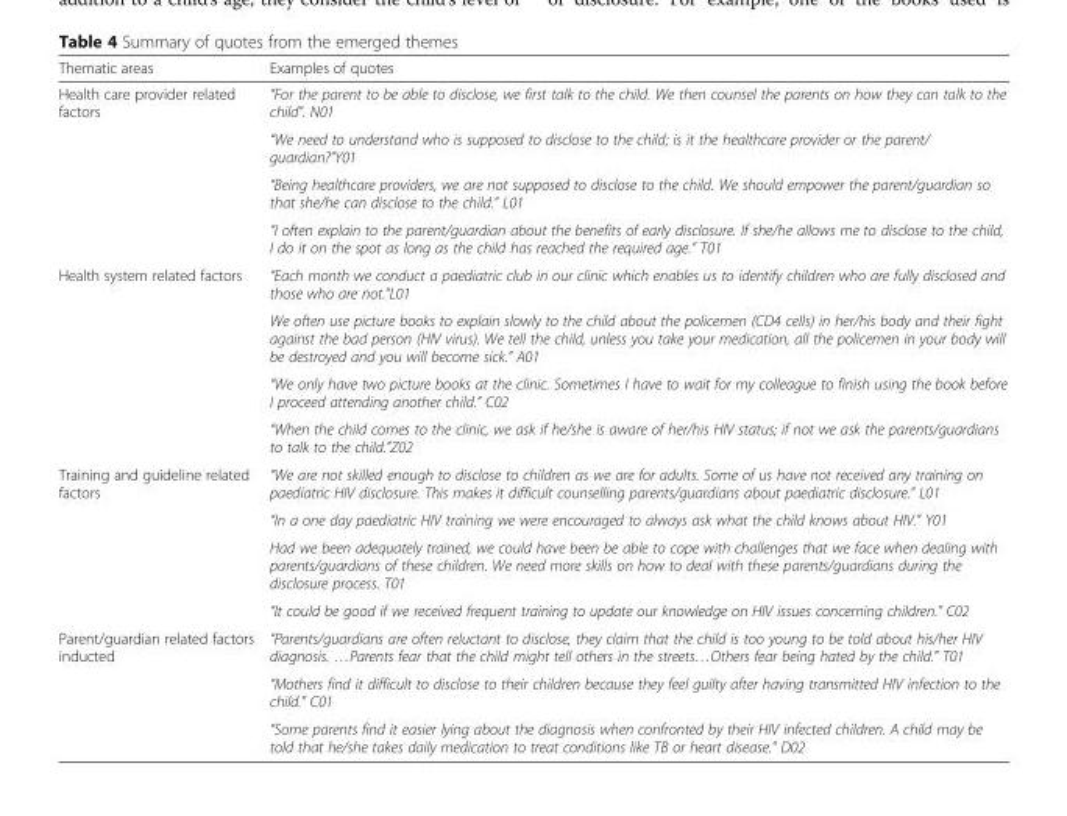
<table><thead><tr><td>Thematic areas</td><td>Examples of quotes</td></tr></thead><tbody><tr><td rowspan="4">Health care provider related factors</td><td>“For the parent to be able to disclose, we first talk to the child. We then counsel the parents on how they can talk to the child”. N01</td></tr><tr><td>“We need to understand who is supposed to disclose to the child; is it the healthcare provider or the parent/ guardian?”Y01</td></tr><tr><td>“Being healthcare providers, we are not supposed to disclose to the child. We should empower the parent/guardian so that she/he can disclose to the child.” L01</td></tr><tr><td>“I often explain to the parent/guardian about the benefits of early disclosure. If she/he allows me to disclose to the child, I do it on the spot as long as the child has reached the required age.” T01</td></tr><tr><td rowspan="4">Health system related factors</td><td>“Each month we conduct a paediatric club in our clinic which enables us to identify children who are fully disclosed and those who are not.”L01</td></tr><tr><td>We often use picture books to explain slowly to the child about the policemen (CD4 cells) in her/his body and their fight against the bad person (HIV virus). We tell the child, unless you take your medication, all the policemen in your body will be destroyed and you will become sick.” A01</td></tr><tr><td>“We only have two picture books at the clinic. Sometimes I have to wait for my colleague to finish using the book before I proceed attending another child.” C02</td></tr><tr><td>“When the child comes to the clinic, we ask if he/she is aware of her/his HIV status; if not we ask the parents/guardians to talk to the child.”Z02</td></tr><tr><td rowspan="4">Training and guideline related factors</td><td>“We are not skilled enough to disclose to children as we are for adults. Some of us have not received any training on paediatric HIV disclosure. This makes it difficult counselling parents/guardians about paediatric disclosure.” L01</td></tr><tr><td>“In a one day paediatric HIV training we were encouraged to always ask what the child knows about HIV.” Y01</td></tr><tr><td>Had we been adequately trained, we could have been be able to cope with challenges that we face when dealing with parents/guardians of these children. We need more skills on how to deal with these parents/guardians during the disclosure process. T01</td></tr><tr><td>“It could be good if we received frequent training to update our knowledge on HIV issues concerning children.” C02</td></tr><tr><td rowspan="3">Parent/guardian related factors inducted</td><td>“Parents/guardians are often reluctant to disclose, they claim that the child is too young to be told about his/her HIV diagnosis. …Parents fear that the child might tell others in the streets…Others fear being hated by the child.” T01</td></tr><tr><td>“Mothers find it difficult to disclose to their children because they feel guilty after having transmitted HIV infection to the child.” C01</td></tr><tr><td>“Some parents find it easier lying about the diagnosis when confronted by their HIV infected children. A child may be told that he/she takes daily medication to treat conditions like TB or heart disease.” D02</td></tr></tbody></table>